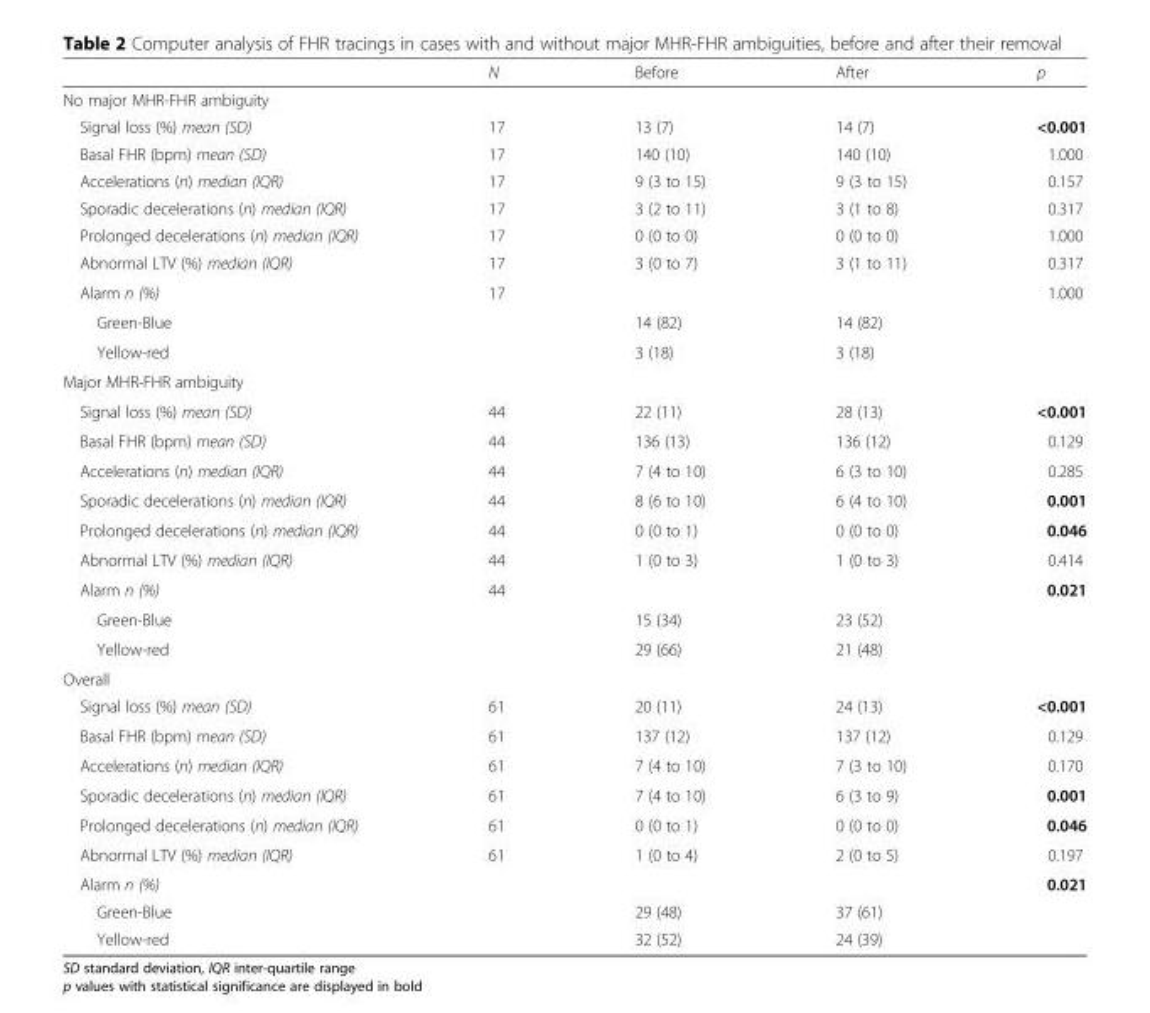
<table><thead><tr><td></td><td>N</td><td>Before</td><td>After</td><td>p</td></tr></thead><tbody><tr><td colspan="5">No major MHR-FHR ambiguity</td></tr><tr><td>Signal loss (%) mean (SD)</td><td>17</td><td>13 (7)</td><td>14 (7)</td><td>&lt;0.001</td></tr><tr><td>Basal FHR (bpm) mean (SD)</td><td>17</td><td>140 (10)</td><td>140 (10)</td><td>1.000</td></tr><tr><td>Accelerations (n) median (IQR)</td><td>17</td><td>9 (3 to 15)</td><td>9 (3 to 15)</td><td>0.157</td></tr><tr><td>Sporadic decelerations (n) median (IQR)</td><td>17</td><td>3 (2 to 11)</td><td>3 (1 to 8)</td><td>0.317</td></tr><tr><td>Prolonged decelerations (n) median (IQR)</td><td>17</td><td>0 (0 to 0)</td><td>0 (0 to 0)</td><td>1.000</td></tr><tr><td>Abnormal LTV (%) median (IQR)</td><td>17</td><td>3 (0 to 7)</td><td>3 (1 to 11)</td><td>0.317</td></tr><tr><td>Alarm n (%)</td><td>17</td><td></td><td></td><td>1.000</td></tr><tr><td>Green-Blue</td><td></td><td>14 (82)</td><td>14 (82)</td><td></td></tr><tr><td>Yellow-red</td><td></td><td>3 (18)</td><td>3 (18)</td><td></td></tr><tr><td colspan="5">Major MHR-FHR ambiguity</td></tr><tr><td>Signal loss (%) mean (SD)</td><td>44</td><td>22 (11)</td><td>28 (13)</td><td>&lt;0.001</td></tr><tr><td>Basal FHR (bpm) mean (SD)</td><td>44</td><td>136 (13)</td><td>136 (12)</td><td>0.129</td></tr><tr><td>Accelerations (n) median (IQR)</td><td>44</td><td>7 (4 to 10)</td><td>6 (3 to 10)</td><td>0.285</td></tr><tr><td>Sporadic decelerations (n) median (IQR)</td><td>44</td><td>8 (6 to 10)</td><td>6 (4 to 10)</td><td>0.001</td></tr><tr><td>Prolonged decelerations (n) median (IQR)</td><td>44</td><td>0 (0 to 1)</td><td>0 (0 to 0)</td><td>0.046</td></tr><tr><td>Abnormal LTV (%) median (IQR)</td><td>44</td><td>1 (0 to 3)</td><td>1 (0 to 3)</td><td>0.414</td></tr><tr><td>Alarm n (%)</td><td>44</td><td></td><td></td><td>0.021</td></tr><tr><td>Green-Blue</td><td></td><td>15 (34)</td><td>23 (52)</td><td></td></tr><tr><td>Yellow-red</td><td></td><td>29 (66)</td><td>21 (48)</td><td></td></tr><tr><td colspan="5">Overall</td></tr><tr><td>Signal loss (%) mean (SD)</td><td>61</td><td>20 (11)</td><td>24 (13)</td><td>&lt;0.001</td></tr><tr><td>Basal FHR (bpm) mean (SD)</td><td>61</td><td>137 (12)</td><td>137 (12)</td><td>0.129</td></tr><tr><td>Accelerations (n) median (IQR)</td><td>61</td><td>7 (4 to 10)</td><td>7 (3 to 10)</td><td>0.170</td></tr><tr><td>Sporadic decelerations (n) median (IQR)</td><td>61</td><td>7 (4 to 10)</td><td>6 (3 to 9)</td><td>0.001</td></tr><tr><td>Prolonged decelerations (n) median (IQR)</td><td>61</td><td>0 (0 to 1)</td><td>0 (0 to 0)</td><td>0.046</td></tr><tr><td>Abnormal LTV (%) median (IQR)</td><td>61</td><td>1 (0 to 4)</td><td>2 (0 to 5)</td><td>0.197</td></tr><tr><td>Alarm n (%)</td><td></td><td></td><td></td><td>0.021</td></tr><tr><td>Green-Blue</td><td></td><td>29 (48)</td><td>37 (61)</td><td></td></tr><tr><td>Yellow-red</td><td></td><td>32 (52)</td><td>24 (39)</td><td></td></tr></tbody></table>